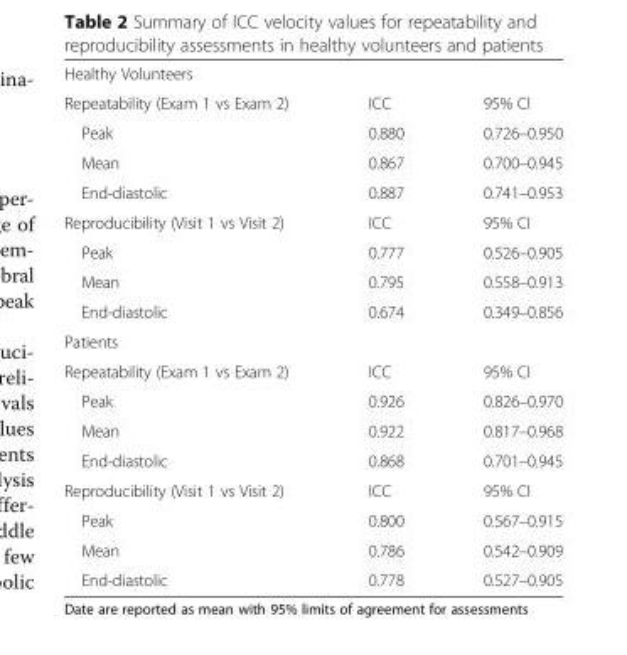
<table><tbody><tr><td colspan="3">Healthy Volunteers</td></tr><tr><td>Repeatability (Exam 1 vs Exam 2)</td><td>ICC</td><td>95% CI</td></tr><tr><td>Peak</td><td>0.880</td><td>0.726–0.950</td></tr><tr><td>Mean</td><td>0.867</td><td>0.700–0.945</td></tr><tr><td>End-diastolic</td><td>0.887</td><td>0.741–0.953</td></tr><tr><td>Reproducibility (Visit 1 vs Visit 2)</td><td>ICC</td><td>95% CI</td></tr><tr><td>Peak</td><td>0.777</td><td>0.526–0.905</td></tr><tr><td>Mean</td><td>0.795</td><td>0.558–0.913</td></tr><tr><td>End-diastolic</td><td>0.674</td><td>0.349–0.856</td></tr><tr><td colspan="3">Patients</td></tr><tr><td>Repeatability (Exam 1 vs Exam 2)</td><td>ICC</td><td>95% CI</td></tr><tr><td>Peak</td><td>0.926</td><td>0.826–0.970</td></tr><tr><td>Mean</td><td>0.922</td><td>0.817–0.968</td></tr><tr><td>End-diastolic</td><td>0.868</td><td>0.701–0.945</td></tr><tr><td>Reproducibility (Visit 1 vs Visit 2)</td><td>ICC</td><td>95% CI</td></tr><tr><td>Peak</td><td>0.800</td><td>0.567–0.915</td></tr><tr><td>Mean</td><td>0.786</td><td>0.542–0.909</td></tr><tr><td>End-diastolic</td><td>0.778</td><td>0.527–0.905</td></tr></tbody></table>